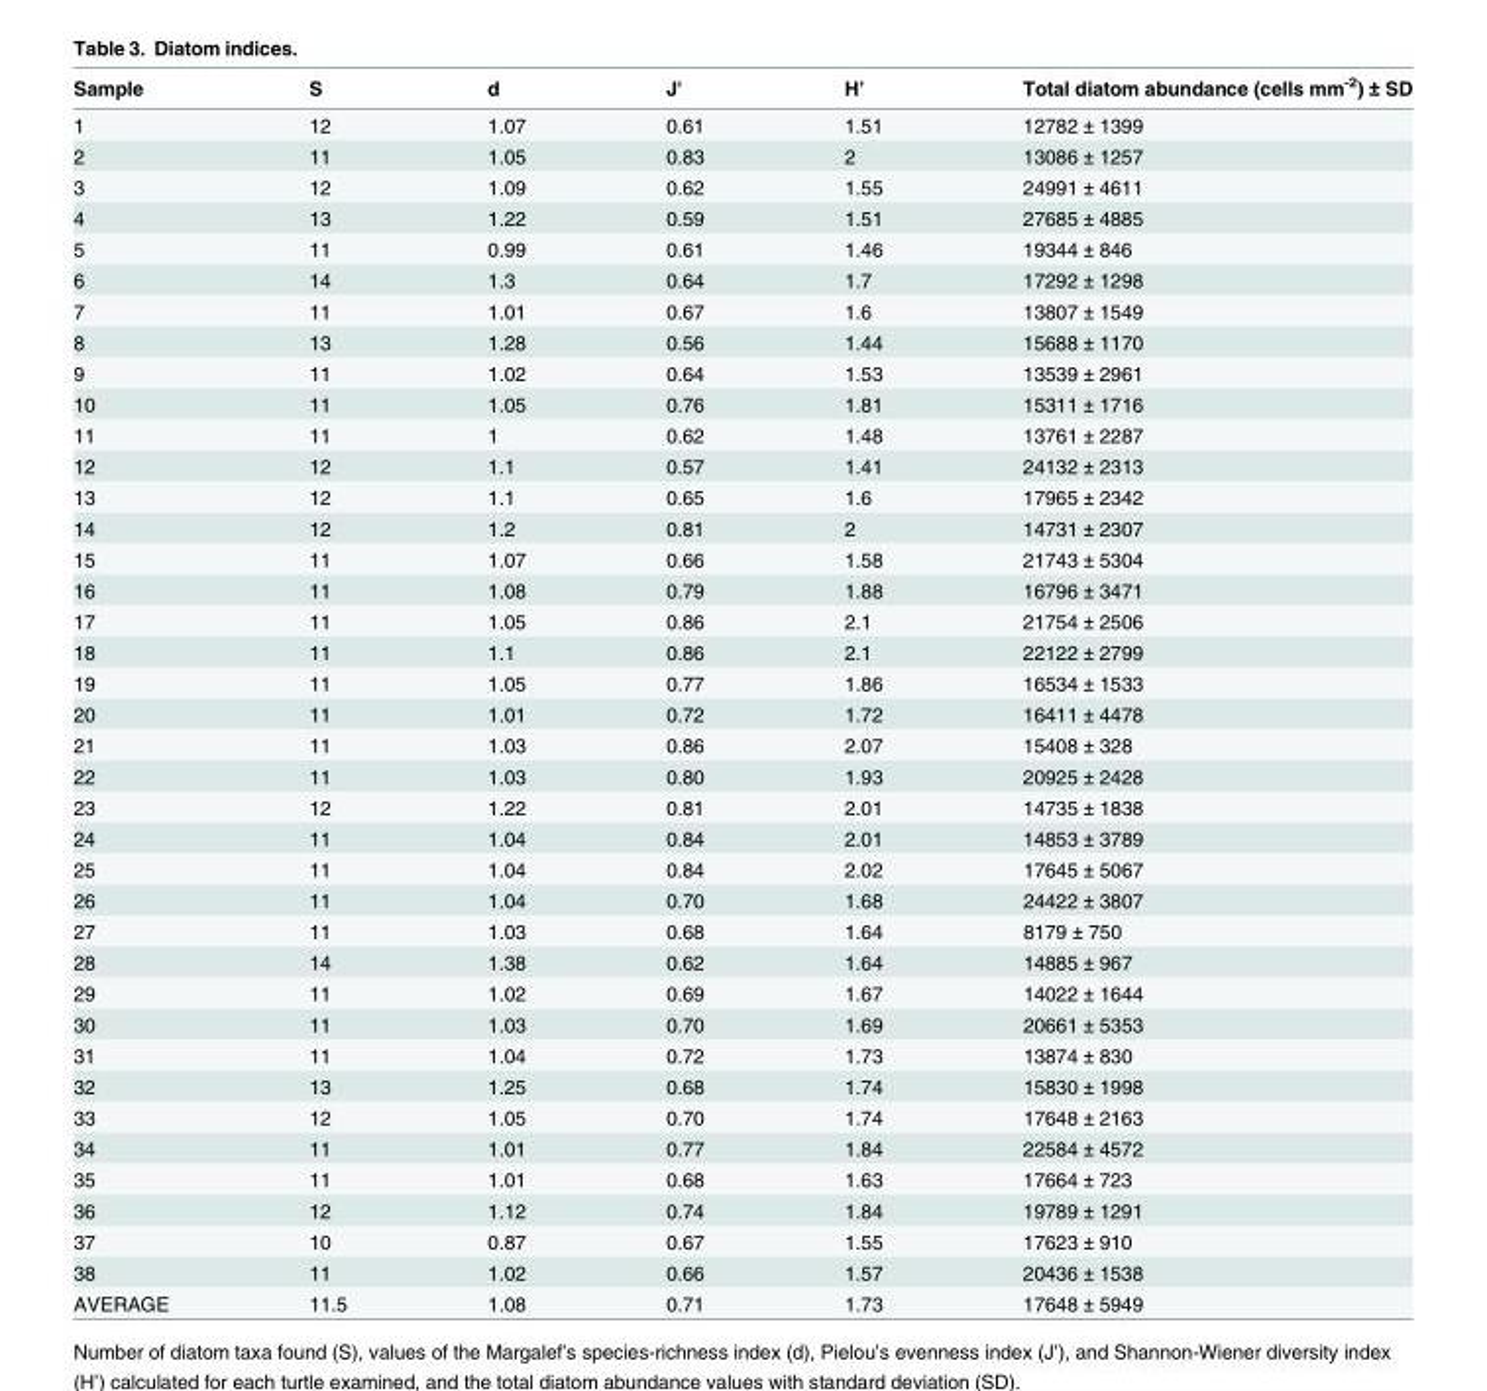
<table><thead><tr><td>Sample</td><td>S</td><td>d</td><td>J&#x27;</td><td>H’</td><td>Total diatom abundance (cells mm<sup>-2</sup>) ± SD</td></tr></thead><tbody><tr><td>1</td><td>12</td><td>1.07</td><td>0.61</td><td>1.51</td><td>12782 ± 1399</td></tr><tr><td>2</td><td>11</td><td>1.05</td><td>0.83</td><td>2</td><td>13086 ± 1257</td></tr><tr><td>3</td><td>12</td><td>1.09</td><td>0.62</td><td>1.55</td><td>24991 ± 4611</td></tr><tr><td>4</td><td>13</td><td>1.22</td><td>0.59</td><td>1.51</td><td>27685 ± 4885</td></tr><tr><td>5</td><td>11</td><td>0.99</td><td>0.61</td><td>1.46</td><td>19344 ± 846</td></tr><tr><td>6</td><td>14</td><td>1.3</td><td>0.64</td><td>1.7</td><td>17292 ± 1298</td></tr><tr><td>7</td><td>11</td><td>1.01</td><td>0.67</td><td>1.6</td><td>13807 ± 1549</td></tr><tr><td>8</td><td>13</td><td>1.28</td><td>0.56</td><td>1.44</td><td>15688 ± 1170</td></tr><tr><td>9</td><td>11</td><td>1.02</td><td>0.64</td><td>1.53</td><td>13539 ± 2961</td></tr><tr><td>10</td><td>11</td><td>1.05</td><td>0.76</td><td>1.81</td><td>15311 ± 1716</td></tr><tr><td>11</td><td>11</td><td>1</td><td>0.62</td><td>1.48</td><td>13761 ± 2287</td></tr><tr><td>12</td><td>12</td><td>1.1</td><td>0.57</td><td>1.41</td><td>24132 ± 2313</td></tr><tr><td>13</td><td>12</td><td>1.1</td><td>0.65</td><td>1.6</td><td>17965 ± 2342</td></tr><tr><td>14</td><td>12</td><td>1.2</td><td>0.81</td><td>2</td><td>14731 ± 2307</td></tr><tr><td>15</td><td>11</td><td>1.07</td><td>0.66</td><td>1.58</td><td>21743 ± 5304</td></tr><tr><td>16</td><td>11</td><td>1.08</td><td>0.79</td><td>1.88</td><td>16796 ± 3471</td></tr><tr><td>17</td><td>11</td><td>1.05</td><td>0.86</td><td>2.1</td><td>21754 ± 2506</td></tr><tr><td>18</td><td>11</td><td>1.1</td><td>0.86</td><td>2.1</td><td>22122 ± 2799</td></tr><tr><td>19</td><td>11</td><td>1.05</td><td>0.77</td><td>1.86</td><td>16534 ± 1533</td></tr><tr><td>20</td><td>11</td><td>1.01</td><td>0.72</td><td>1.72</td><td>16411 ± 4478</td></tr><tr><td>21</td><td>11</td><td>1.03</td><td>0.86</td><td>2.07</td><td>15408 ± 328</td></tr><tr><td>22</td><td>11</td><td>1.03</td><td>0.80</td><td>1.93</td><td>20925 ± 2428</td></tr><tr><td>23</td><td>12</td><td>1.22</td><td>0.81</td><td>2.01</td><td>14735 ± 1838</td></tr><tr><td>24</td><td>11</td><td>1.04</td><td>0.84</td><td>2.01</td><td>14853 ± 3789</td></tr><tr><td>25</td><td>11</td><td>1.04</td><td>0.84</td><td>2.02</td><td>17645 ± 5067</td></tr><tr><td>26</td><td>11</td><td>1.04</td><td>0.70</td><td>1.68</td><td>24422 ± 3807</td></tr><tr><td>27</td><td>11</td><td>1.03</td><td>0.68</td><td>1.64</td><td>8179 ± 750</td></tr><tr><td>28</td><td>14</td><td>1.38</td><td>0.62</td><td>1.64</td><td>14885 ± 967</td></tr><tr><td>29</td><td>11</td><td>1.02</td><td>0.69</td><td>1.67</td><td>14022 ± 1644</td></tr><tr><td>30</td><td>11</td><td>1.03</td><td>0.70</td><td>1.69</td><td>20661 ± 5353</td></tr><tr><td>31</td><td>11</td><td>1.04</td><td>0.72</td><td>1.73</td><td>13874 ± 830</td></tr><tr><td>32</td><td>13</td><td>1.25</td><td>0.68</td><td>1.74</td><td>15830 ± 1998</td></tr><tr><td>33</td><td>12</td><td>1.05</td><td>0.70</td><td>1.74</td><td>17648 ± 2163</td></tr><tr><td>34</td><td>11</td><td>1.01</td><td>0.77</td><td>1.84</td><td>22584 ± 4572</td></tr><tr><td>35</td><td>11</td><td>1.01</td><td>0.68</td><td>1.63</td><td>17664 ± 723</td></tr><tr><td>36</td><td>12</td><td>1.12</td><td>0.74</td><td>1.84</td><td>19789 ± 1291</td></tr><tr><td>37</td><td>10</td><td>0.87</td><td>0.67</td><td>1.55</td><td>17623 ± 910</td></tr><tr><td>38</td><td>11</td><td>1.02</td><td>0.66</td><td>1.57</td><td>20436 ± 1538</td></tr><tr><td>AVERAGE</td><td>11.5</td><td>1.08</td><td>0.71</td><td>1.73</td><td>17648 ± 5949</td></tr></tbody></table>